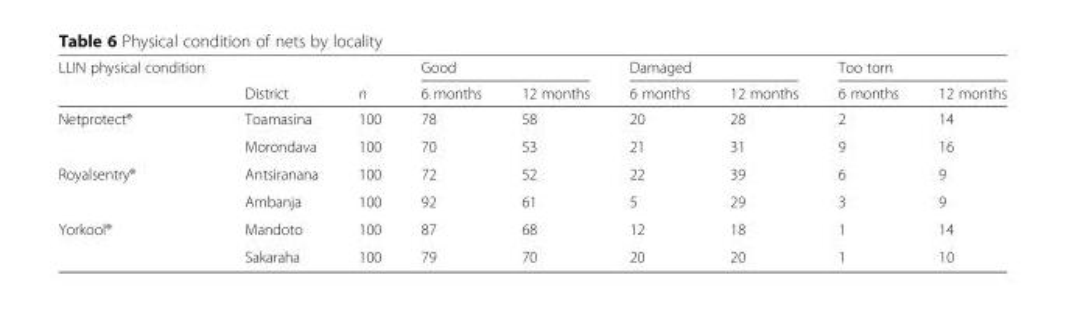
<table><thead><tr><td rowspan="2">LLIN physical condition</td><td rowspan="2">District</td><td rowspan="2">n</td><td colspan="2">Good</td><td colspan="2">Damaged</td><td colspan="2">Too torn</td></tr><tr><td>6 months</td><td>12 months</td><td>6 months</td><td>12 months</td><td>6 months</td><td>12 months</td></tr></thead><tbody><tr><td rowspan="2">Netprotect®</td><td>Toamasina</td><td>100</td><td>78</td><td>58</td><td>20</td><td>28</td><td>2</td><td>14</td></tr><tr><td>Morondava</td><td>100</td><td>70</td><td>53</td><td>21</td><td>31</td><td>9</td><td>16</td></tr><tr><td rowspan="2">Royalsentry®</td><td>Antsiranana</td><td>100</td><td>72</td><td>52</td><td>22</td><td>39</td><td>6</td><td>9</td></tr><tr><td>Ambanja</td><td>100</td><td>92</td><td>61</td><td>5</td><td>29</td><td>3</td><td>9</td></tr><tr><td rowspan="2">Yorkool®</td><td>Mandoto</td><td>100</td><td>87</td><td>68</td><td>12</td><td>18</td><td>1</td><td>14</td></tr><tr><td>Sakaraha</td><td>100</td><td>79</td><td>70</td><td>20</td><td>20</td><td>1</td><td>10</td></tr></tbody></table>